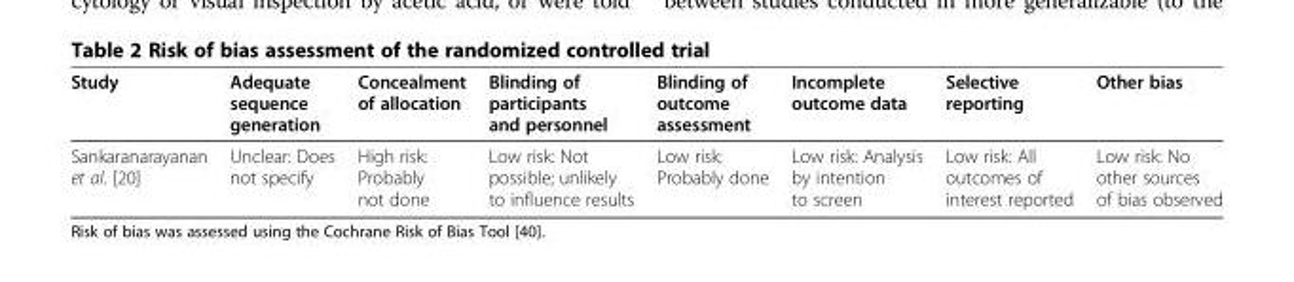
<table><thead><tr><td>Study</td><td>Adequate sequence generation</td><td>Concealment of allocation</td><td>Blinding of participants and personnel</td><td>Blinding of outcome assessment</td><td>Incomplete outcome data</td><td>Selective reporting</td><td>Other bias</td></tr></thead><tbody><tr><td>Sankaranarayanan et al. [20]</td><td>Unclear: Does not specify</td><td>High risk: Probably not done</td><td>Low risk: Not possible; unlikely to influence results</td><td>Low risk: Probably done</td><td>Low risk: Analysis by intention to screen</td><td>Low risk: All outcomes of interest reported</td><td>Low risk: No other sources of bias observed</td></tr></tbody></table>